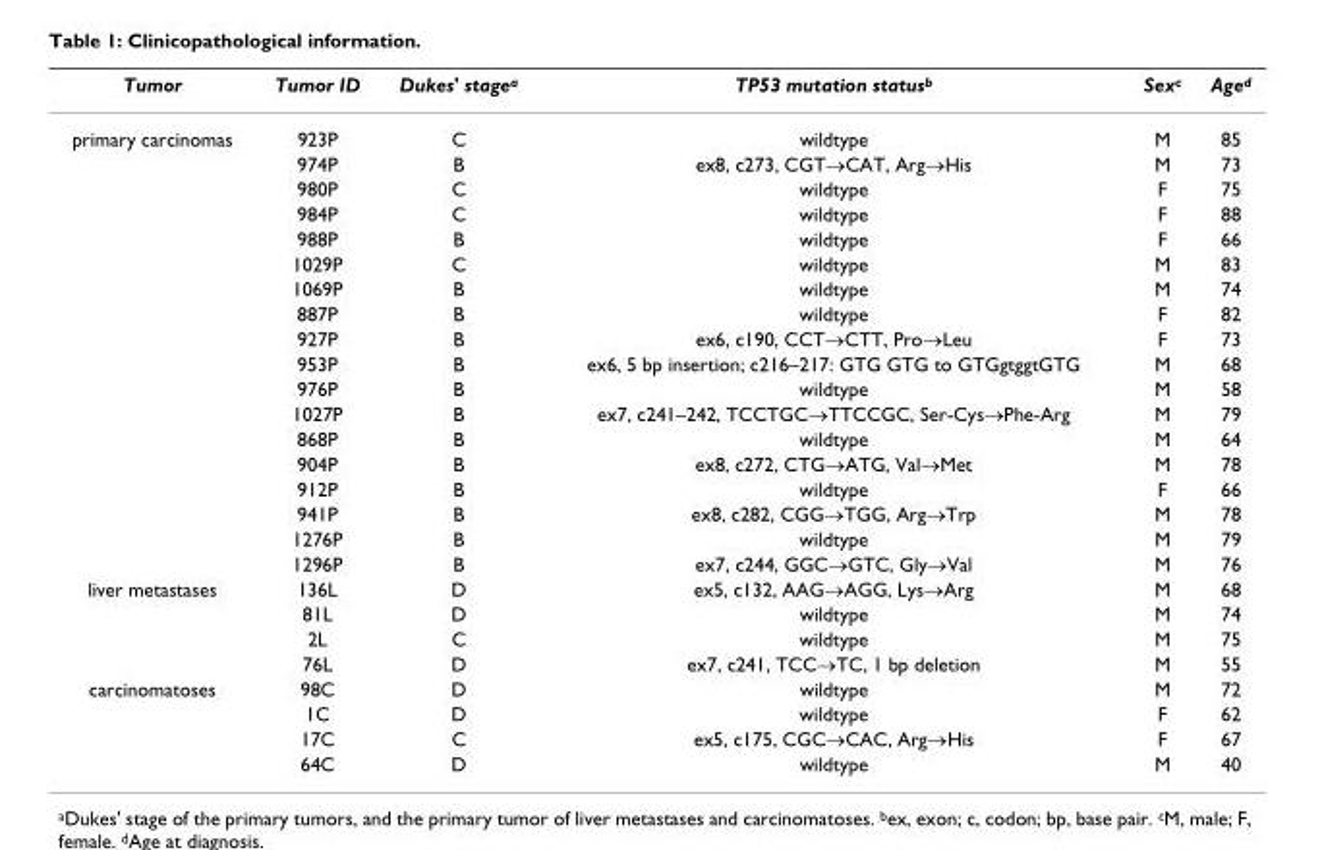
<table><thead><tr><td>Tumor</td><td>Tumor ID</td><td>Dukes&#x27; stage<sup>a</sup></td><td>TP53 mutation status<sup>b</sup></td><td>Sex<sup>c</sup></td><td>Age<sup>d</sup></td></tr></thead><tbody><tr><td rowspan="18">primary carcinomas</td><td>923P</td><td>C</td><td>wildtype</td><td>M</td><td>85</td></tr><tr><td>974P</td><td>B</td><td>ex8, c273, CGT→CAT, Arg→His</td><td>M</td><td>73</td></tr><tr><td>980P</td><td>C</td><td>wildtype</td><td>F</td><td>75</td></tr><tr><td>984P</td><td>C</td><td>wildtype</td><td>F</td><td>88</td></tr><tr><td>988P</td><td>B</td><td>wildtype</td><td>F</td><td>66</td></tr><tr><td>1029P</td><td>C</td><td>wildtype</td><td>M</td><td>83</td></tr><tr><td>1069P</td><td>B</td><td>wildtype</td><td>M</td><td>74</td></tr><tr><td>887P</td><td>B</td><td>wildtype</td><td>F</td><td>82</td></tr><tr><td>927P</td><td>B</td><td>ex6, c190, CCT→CTT, Pro→Leu</td><td>F</td><td>73</td></tr><tr><td>953P</td><td>B</td><td>ex6, 5 bp insertion; c216–217: GTG GTG to GTGgtggtGTG</td><td>M</td><td>68</td></tr><tr><td>976P</td><td>B</td><td>wildtype</td><td>M</td><td>58</td></tr><tr><td>1027P</td><td>B</td><td>ex7, c241–242, TCCTGC→TTCCGC, Ser-Cys→Phe-Arg</td><td>M</td><td>79</td></tr><tr><td>868P</td><td>B</td><td>wildtype</td><td>M</td><td>64</td></tr><tr><td>904P</td><td>B</td><td>ex8, c272, CTG→ATG, Val→Met</td><td>M</td><td>78</td></tr><tr><td>912P</td><td>B</td><td>wildtype</td><td>F</td><td>66</td></tr><tr><td>941P</td><td>B</td><td>ex8, c282, CGG→TGG, Arg→Trp</td><td>M</td><td>78</td></tr><tr><td>1276P</td><td>B</td><td>wildtype</td><td>M</td><td>79</td></tr><tr><td>1296P</td><td>B</td><td>ex7, c244, GGC→GTC, Gly→Val</td><td>M</td><td>76</td></tr><tr><td rowspan="4">liver metastases</td><td>136L</td><td>D</td><td>ex5, c132, AAG→AGG, Lys→Arg</td><td>M</td><td>68</td></tr><tr><td>81L</td><td>D</td><td>wildtype</td><td>M</td><td>74</td></tr><tr><td>2L</td><td>C</td><td>wildtype</td><td>M</td><td>75</td></tr><tr><td>76L</td><td>D</td><td>ex7, c241, TCC→TC, 1 bp deletion</td><td>M</td><td>55</td></tr><tr><td rowspan="4">carcinomatoses</td><td>98C</td><td>D</td><td>wildtype</td><td>M</td><td>72</td></tr><tr><td>1C</td><td>D</td><td>wildtype</td><td>F</td><td>62</td></tr><tr><td>17C</td><td>C</td><td>ex5, c175, CGC→CAC, Arg→His</td><td>F</td><td>67</td></tr><tr><td>64C</td><td>D</td><td>wildtype</td><td>M</td><td>40</td></tr></tbody></table>